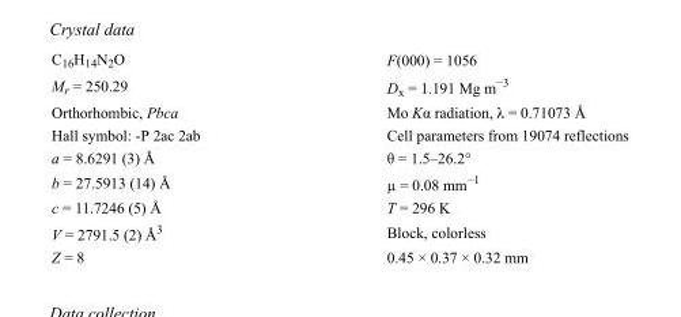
<table><tbody><tr><td>C<sub>16</sub>H<sub>14</sub>N<sub>2</sub>O</td><td>F(000) = 1056</td></tr><tr><td>M<sub>r</sub> = 250.29</td><td>D<sub>x</sub> = 1.191 Mg m<sup>−3</sup></td></tr><tr><td>Orthorhombic, Pbca</td><td>Mo Kα radiation, λ = 0.71073 Å</td></tr><tr><td>Hall symbol: -P 2ac 2ab</td><td>Cell parameters from 19074 reflections</td></tr><tr><td>a = 8.6291 (3) Å</td><td>θ = 1.5–26.2°</td></tr><tr><td>b = 27.5913 (14) Å</td><td>µ = 0.08 mm<sup>−1</sup></td></tr><tr><td>c = 11.7246 (5) Å</td><td>T = 296 K</td></tr><tr><td>V = 2791.5 (2) Å<sup>3</sup></td><td>Block, colorless</td></tr><tr><td>Z = 8</td><td>0.45 × 0.37 × 0.32 mm</td></tr></tbody></table>